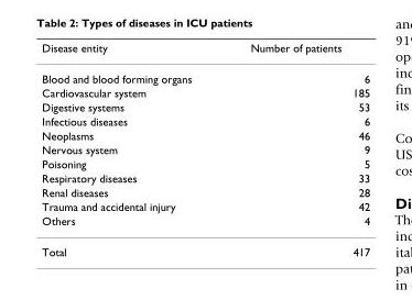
<table><thead><tr><td>Disease entity</td><td>Number of patients</td></tr></thead><tbody><tr><td>Blood and blood forming organs</td><td>6</td></tr><tr><td>Cardiovascular system</td><td>185</td></tr><tr><td>Digestive systems</td><td>53</td></tr><tr><td>Infectious diseases</td><td>6</td></tr><tr><td>Neoplasms</td><td>46</td></tr><tr><td>Nervous system</td><td>9</td></tr><tr><td>Poisoning</td><td>5</td></tr><tr><td>Respiratory diseases</td><td>33</td></tr><tr><td>Renal diseases</td><td>28</td></tr><tr><td>Trauma and accidental injury</td><td>42</td></tr><tr><td>Others</td><td>4</td></tr><tr><td>Total</td><td>417</td></tr></tbody></table>